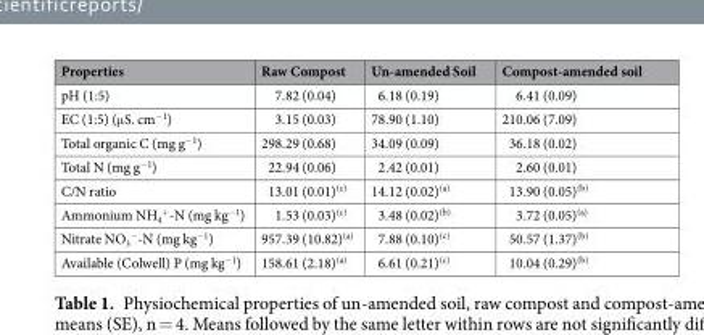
<table><thead><tr><td>Properties</td><td>Raw Compost</td><td>Un-amended Soil</td><td>Compost-amended soil</td></tr></thead><tbody><tr><td>pH (1:5)</td><td>7.82 (0.04)</td><td>6.18 (0.19)</td><td>6.41 (0.09)</td></tr><tr><td>EC (1:5) (μS. cm<sup>−1</sup>)</td><td>3.15 (0.03)</td><td>78.90 (1.10)</td><td>210.06 (7.09)</td></tr><tr><td>Total organic C (mg g<sup>−1</sup>)</td><td>298.29 (0.68)</td><td>34.09 (0.09)</td><td>36.18 (0.02)</td></tr><tr><td>Total N (mg g<sup>−1</sup>)</td><td>22.94 (0.06)</td><td>2.42 (0.01)</td><td>2.60 (0.01)</td></tr><tr><td>C/N ratio</td><td>13.01 (0.01)<sup>(c)</sup></td><td>14.12 (0.02)<sup>(a)</sup></td><td>13.90 (0.05)<sup>(b)</sup></td></tr><tr><td>Ammonium NH<sub>4</sub> <sup>+</sup>-N (mg kg<sup>−1</sup>)</td><td>1.53 (0.03)<sup>(c)</sup></td><td>3.48 (0.02)<sup>(b)</sup></td><td>3.72 (0.05)<sup>(a)</sup></td></tr><tr><td>Nitrate NO<sub>3</sub> <sup>−</sup>-N (mg kg<sup>−1</sup>)</td><td>957.39 (10.82)<sup>(a)</sup></td><td>7.88 (0.10)<sup>(c)</sup></td><td>50.57 (1.37)<sup>(b)</sup></td></tr><tr><td>Available (Colwell) P (mg kg<sup>−1</sup>)</td><td>158.61 (2.18)<sup>(a)</sup></td><td>6.61 (0.21)<sup>(c)</sup></td><td>10.04 (0.29)<sup>(b)</sup></td></tr></tbody></table>